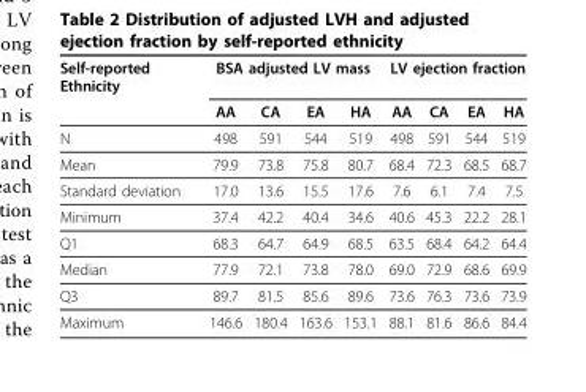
<table><thead><tr><td rowspan="2">Self-reported Ethnicity</td><td colspan="4">BSA adjusted LV mass</td><td colspan="4">LV ejection fraction</td></tr><tr><td>AA</td><td>CA</td><td>EA</td><td>HA</td><td>AA</td><td>CA</td><td>EA</td><td>HA</td></tr></thead><tbody><tr><td>N</td><td>498</td><td>591</td><td>544</td><td>519</td><td>498</td><td>591</td><td>544</td><td>519</td></tr><tr><td>Mean</td><td>79.9</td><td>73.8</td><td>75.8</td><td>80.7</td><td>68.4</td><td>72.3</td><td>68.5</td><td>68.7</td></tr><tr><td>Standard deviation</td><td>17.0</td><td>13.6</td><td>15.5</td><td>17.6</td><td>7.6</td><td>6.1</td><td>7.4</td><td>7.5</td></tr><tr><td>Minimum</td><td>37.4</td><td>42.2</td><td>40.4</td><td>34.6</td><td>40.6</td><td>45.3</td><td>22.2</td><td>28.1</td></tr><tr><td>Q1</td><td>68.3</td><td>64.7</td><td>64.9</td><td>68.5</td><td>63.5</td><td>68.4</td><td>64.2</td><td>64.4</td></tr><tr><td>Median</td><td>77.9</td><td>72.1</td><td>73.8</td><td>78.0</td><td>69.0</td><td>72.9</td><td>68.6</td><td>69.9</td></tr><tr><td>Q3</td><td>89.7</td><td>81.5</td><td>85.6</td><td>89.6</td><td>73.6</td><td>76.3</td><td>73.6</td><td>73.9</td></tr><tr><td>Maximum</td><td>146.6</td><td>180.4</td><td>163.6</td><td>153.1</td><td>88.1</td><td>81.6</td><td>86.6</td><td>84.4</td></tr></tbody></table>